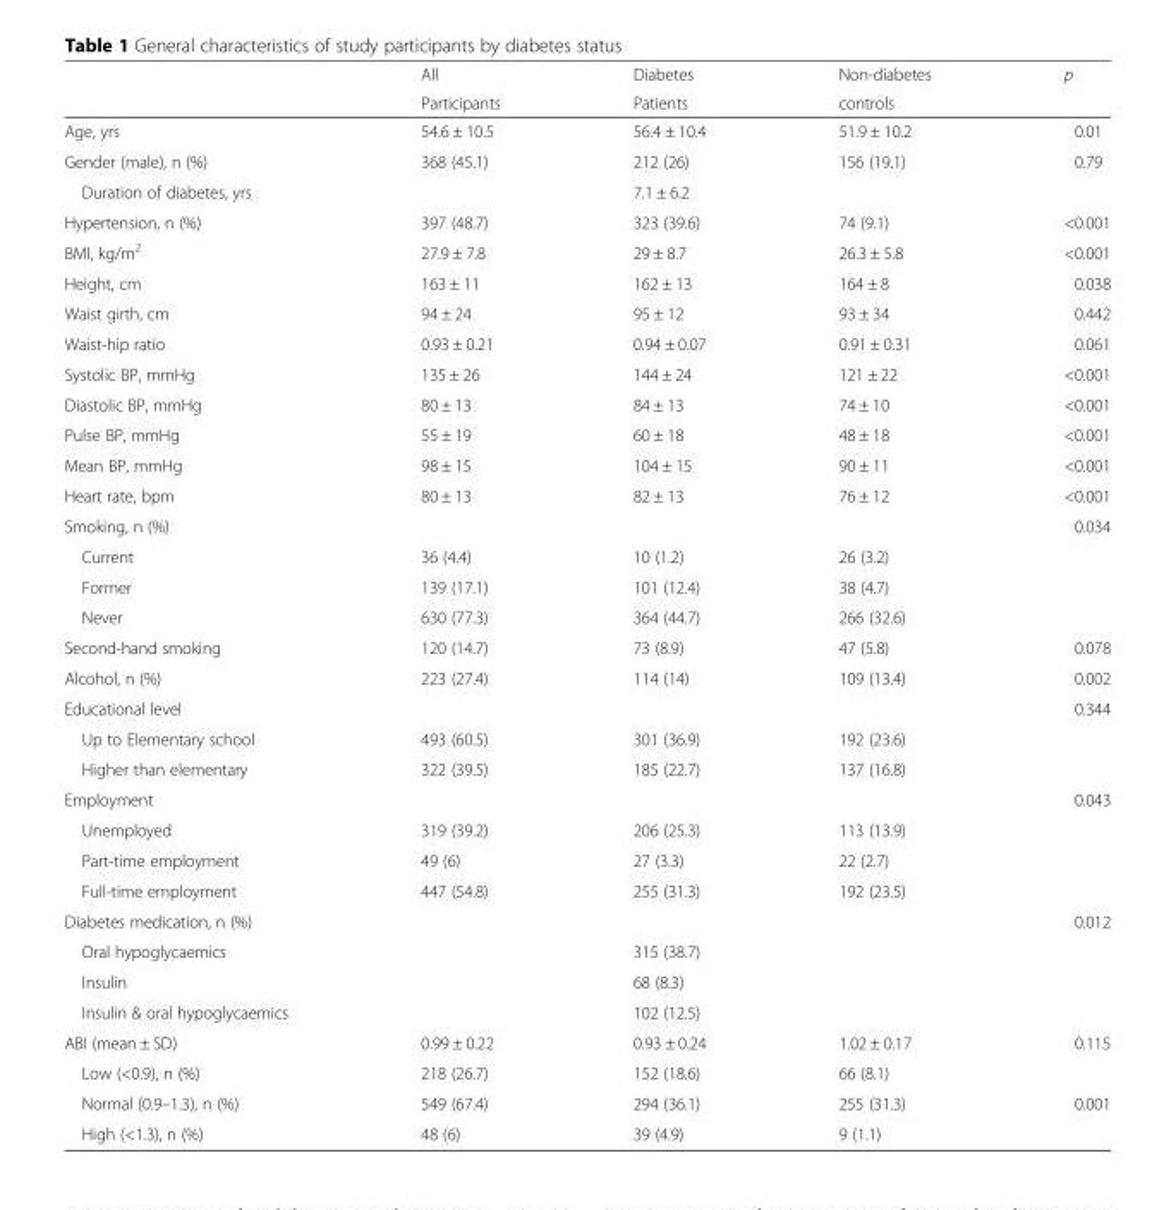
<table><thead><tr><td rowspan="2"></td><td rowspan="2">All Participants</td><td rowspan="2">Diabetes Patients</td><td rowspan="2">Non-diabetes controls</td><td rowspan="2">p</td></tr><tr></tr></thead><tbody><tr><td>Age, yrs</td><td>54.6 ± 10.5</td><td>56.4 ± 10.4</td><td>51.9 ± 10.2</td><td>0.01</td></tr><tr><td>Gender (male), n (%)</td><td>368 (45.1)</td><td>212 (26)</td><td>156 (19.1)</td><td>0.79</td></tr><tr><td>Duration of diabetes, yrs</td><td></td><td>7.1 ± 6.2</td><td></td><td></td></tr><tr><td>Hypertension, n (%)</td><td>397 (48.7)</td><td>323 (39.6)</td><td>74 (9.1)</td><td>&lt;0.001</td></tr><tr><td>BMI, kg/m<sup>2</sup></td><td>27.9 ± 7.8</td><td>29 ± 8.7</td><td>26.3 ± 5.8</td><td>&lt;0.001</td></tr><tr><td>Height, cm</td><td>163 ± 11</td><td>162 ± 13</td><td>164 ± 8</td><td>0.038</td></tr><tr><td>Waist girth, cm</td><td>94 ± 24</td><td>95 ± 12</td><td>93 ± 34</td><td>0.442</td></tr><tr><td>Waist-hip ratio</td><td>0.93 ± 0.21</td><td>0.94 ± 0.07</td><td>0.91 ± 0.31</td><td>0.061</td></tr><tr><td>Systolic BP, mmHg</td><td>135 ± 26</td><td>144 ± 24</td><td>121 ± 22</td><td>&lt;0.001</td></tr><tr><td>Diastolic BP, mmHg</td><td>80 ± 13</td><td>84 ± 13</td><td>74 ± 10</td><td>&lt;0.001</td></tr><tr><td>Pulse BP, mmHg</td><td>55 ± 19</td><td>60 ± 18</td><td>48 ± 18</td><td>&lt;0.001</td></tr><tr><td>Mean BP, mmHg</td><td>98 ± 15</td><td>104 ± 15</td><td>90 ± 11</td><td>&lt;0.001</td></tr><tr><td>Heart rate, bpm</td><td>80 ± 13</td><td>82 ± 13</td><td>76 ± 12</td><td>&lt;0.001</td></tr><tr><td>Smoking, n (%)</td><td></td><td></td><td></td><td>0.034</td></tr><tr><td>Current</td><td>36 (4.4)</td><td>10 (1.2)</td><td>26 (3.2)</td><td></td></tr><tr><td>Former</td><td>139 (17.1)</td><td>101 (12.4)</td><td>38 (4.7)</td><td></td></tr><tr><td>Never</td><td>630 (77.3)</td><td>364 (44.7)</td><td>266 (32.6)</td><td></td></tr><tr><td>Second-hand smoking</td><td>120 (14.7)</td><td>73 (8.9)</td><td>47 (5.8)</td><td>0.078</td></tr><tr><td>Alcohol, n (%)</td><td>223 (27.4)</td><td>114 (14)</td><td>109 (13.4)</td><td>0.002</td></tr><tr><td>Educational level</td><td></td><td></td><td></td><td>0.344</td></tr><tr><td>Up to Elementary school</td><td>493 (60.5)</td><td>301 (36.9)</td><td>192 (23.6)</td><td></td></tr><tr><td>Higher than elementary</td><td>322 (39.5)</td><td>185 (22.7)</td><td>137 (16.8)</td><td></td></tr><tr><td>Employment</td><td></td><td></td><td></td><td>0.043</td></tr><tr><td>Unemployed</td><td>319 (39.2)</td><td>206 (25.3)</td><td>113 (13.9)</td><td></td></tr><tr><td>Part-time employment</td><td>49 (6)</td><td>27 (3.3)</td><td>22 (2.7)</td><td></td></tr><tr><td>Full-time employment</td><td>447 (54.8)</td><td>255 (31.3)</td><td>192 (23.5)</td><td></td></tr><tr><td>Diabetes medication, n (%)</td><td></td><td></td><td></td><td>0.012</td></tr><tr><td>Oral hypoglycaemics</td><td></td><td>315 (38.7)</td><td></td><td></td></tr><tr><td>Insulin</td><td></td><td>68 (8.3)</td><td></td><td></td></tr><tr><td>Insulin &amp; oral hypoglycaemics</td><td></td><td>102 (12.5)</td><td></td><td></td></tr><tr><td>ABI (mean ± SD)</td><td>0.99 ± 0.22</td><td>0.93 ± 0.24</td><td>1.02 ± 0.17</td><td>0.115</td></tr><tr><td>Low (&lt;0.9), n (%)</td><td>218 (26.7)</td><td>152 (18.6)</td><td>66 (8.1)</td><td></td></tr><tr><td>Normal (0.9–1.3), n (%)</td><td>549 (67.4)</td><td>294 (36.1)</td><td>255 (31.3)</td><td>0.001</td></tr><tr><td>High (&lt;1.3), n (%)</td><td>48 (6)</td><td>39 (4.9)</td><td>9 (1.1)</td><td></td></tr></tbody></table>